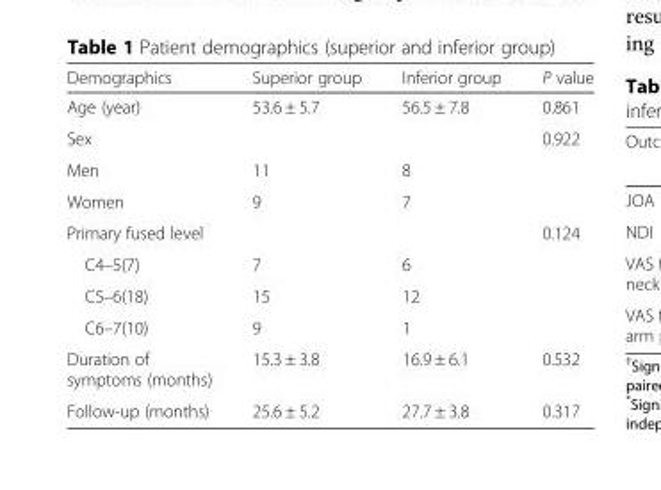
<table><thead><tr><td>Demographics</td><td>Superior group</td><td>Inferior group</td><td>P value</td></tr></thead><tbody><tr><td>Age (year)</td><td>53.6 ± 5.7</td><td>56.5 ± 7.8</td><td>0.861</td></tr><tr><td>Sex</td><td></td><td></td><td>0.922</td></tr><tr><td>Men</td><td>11</td><td>8</td><td></td></tr><tr><td>Women</td><td>9</td><td>7</td><td></td></tr><tr><td colspan="2">Primary fused level</td><td></td><td>0.124</td></tr><tr><td>C4–5(7)</td><td>7</td><td>6</td><td></td></tr><tr><td>C5–6(18)</td><td>15</td><td>12</td><td></td></tr><tr><td>C6–7(10)</td><td>9</td><td>1</td><td></td></tr><tr><td>Duration of symptoms (months)</td><td>15.3 ± 3.8</td><td>16.9 ± 6.1</td><td>0.532</td></tr><tr><td>Follow-up (months)</td><td>25.6 ± 5.2</td><td>27.7 ± 3.8</td><td>0.317</td></tr></tbody></table>